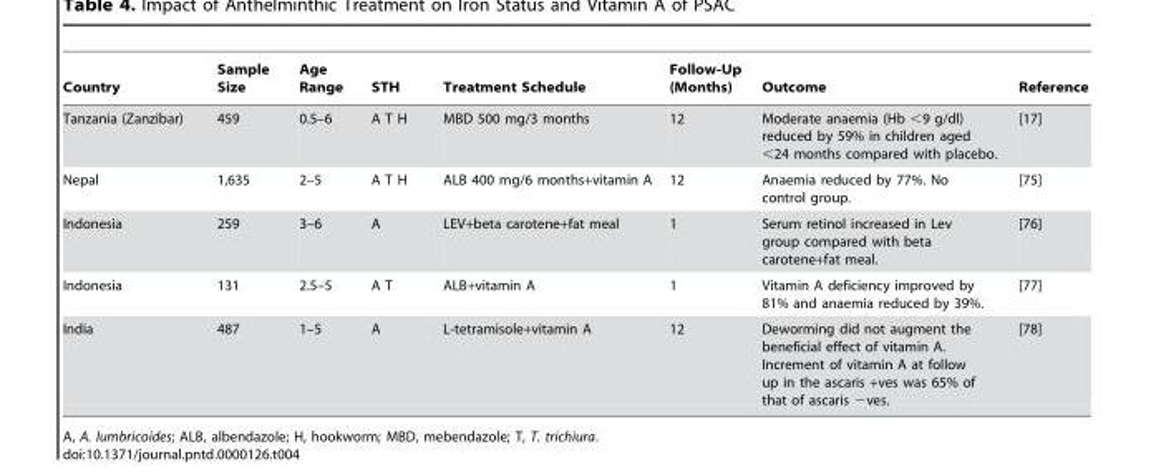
<table><thead><tr><td>Country</td><td>Sample Size</td><td>Age Range</td><td>STH</td><td>Treatment Schedule</td><td>Follow-Up (Months)</td><td>Outcome</td><td>Reference</td></tr></thead><tbody><tr><td>Tanzania (Zanzibar)</td><td>459</td><td>0.5–6</td><td>A T H</td><td>MBD 500 mg/3 months</td><td>12</td><td>Moderate anaemia (Hb &lt;9 g/dl) reduced by 59% in children aged &lt;24 months compared with placebo.</td><td>[17]</td></tr><tr><td>Nepal</td><td>1,635</td><td>2–5</td><td>A T H</td><td>ALB 400 mg/6 months+vitamin A</td><td>12</td><td>Anaemia reduced by 77%. No control group.</td><td>[75]</td></tr><tr><td>Indonesia</td><td>259</td><td>3–6</td><td>A</td><td>LEV+beta carotene+fat meal</td><td>1</td><td>Serum retinol increased in Lev group compared with beta carotene+fat meal.</td><td>[76]</td></tr><tr><td>Indonesia</td><td>131</td><td>2.5–5</td><td>A T</td><td>ALB+vitamin A</td><td>1</td><td>Vitamin A deficiency improved by 81% and anaemia reduced by 39%.</td><td>[77]</td></tr><tr><td>India</td><td>487</td><td>1–5</td><td>A</td><td>L-tetramisole+vitamin A</td><td>12</td><td>Deworming did not augment the beneficial effect of vitamin A. Increment of vitamin A at follow up in the ascaris +ves was 65% of that of ascaris −ves.</td><td>[78]</td></tr></tbody></table>